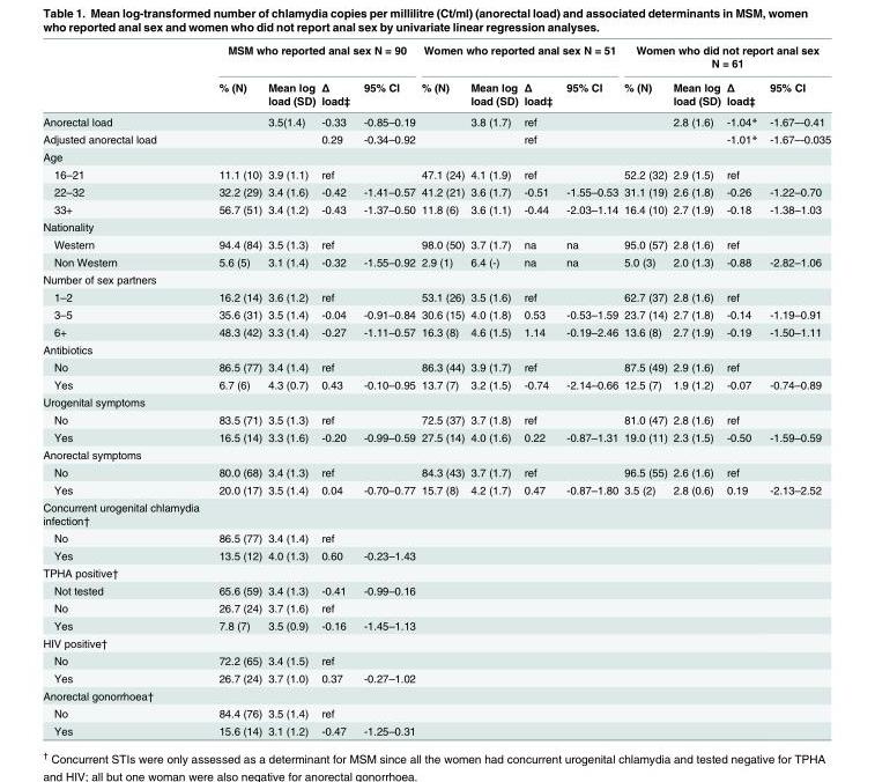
<table><thead><tr><td rowspan="2"></td><td colspan="4">MSM who reported anal sex N = 90</td><td colspan="4">Women who reported anal sex N = 51</td><td colspan="4">Women who did not report anal sex N = 61</td></tr><tr><td>% (N)</td><td>Mean log load (SD)</td><td>Δ load‡</td><td>95% CI</td><td>% (N)</td><td>Mean log load (SD)</td><td>Δ load‡</td><td>95% CI</td><td>% (N)</td><td>Mean log load (SD)</td><td>Δ load‡</td><td>95% CI</td></tr></thead><tbody><tr><td>Anorectal load</td><td></td><td>3.5(1.4)</td><td>-0.33</td><td>-0.85–0.19</td><td></td><td>3.8 (1.7)</td><td>ref</td><td></td><td></td><td>2.8 (1.6)</td><td>-1.04*</td><td>-1.67–-0.41</td></tr><tr><td>Adjusted anorectal load</td><td></td><td></td><td>0.29</td><td>-0.34–0.92</td><td></td><td></td><td>ref</td><td></td><td></td><td></td><td>-1.01*</td><td>-1.67–-0.035</td></tr><tr><td colspan="13">Age</td></tr><tr><td>16–21</td><td>11.1 (10)</td><td>3.9 (1.1)</td><td>ref</td><td></td><td>47.1 (24)</td><td>4.1 (1.9)</td><td>ref</td><td></td><td>52.2 (32)</td><td>2.9 (1.5)</td><td>ref</td><td></td></tr><tr><td>22–32</td><td>32.2 (29)</td><td>3.4 (1.6)</td><td>-0.42</td><td>-1.41–0.57</td><td>41.2 (21)</td><td>3.6 (1.7)</td><td>-0.51</td><td>-1.55–0.53</td><td>31.1 (19)</td><td>2.6 (1.8)</td><td>-0.26</td><td>-1.22–0.70</td></tr><tr><td>33+</td><td>56.7 (51)</td><td>3.4 (1.2)</td><td>-0.43</td><td>-1.37–0.50</td><td>11.8 (6)</td><td>3.6 (1.1)</td><td>-0.44</td><td>-2.03–1.14</td><td>16.4 (10)</td><td>2.7 (1.9)</td><td>-0.18</td><td>-1.38–1.03</td></tr><tr><td colspan="13">Nationality</td></tr><tr><td>Western</td><td>94.4 (84)</td><td>3.5 (1.3)</td><td>ref</td><td></td><td>98.0 (50)</td><td>3.7 (1.7)</td><td>na</td><td>na</td><td>95.0 (57)</td><td>2.8 (1.6)</td><td>ref</td><td></td></tr><tr><td>Non Western</td><td>5.6 (5)</td><td>3.1 (1.4)</td><td>-0.32</td><td>-1.55–0.92</td><td>2.9 (1)</td><td>6.4 (-)</td><td>na</td><td>na</td><td>5.0 (3)</td><td>2.0 (1.3)</td><td>-0.88</td><td>-2.82–1.06</td></tr><tr><td colspan="13">Number of sex partners</td></tr><tr><td>1–2</td><td>16.2 (14)</td><td>3.6 (1.2)</td><td>ref</td><td></td><td>53.1 (26)</td><td>3.5 (1.6)</td><td>ref</td><td></td><td>62.7 (37)</td><td>2.8 (1.6)</td><td>ref</td><td></td></tr><tr><td>3–5</td><td>35.6 (31)</td><td>3.5 (1.4)</td><td>-0.04</td><td>-0.91–0.84</td><td>30.6 (15)</td><td>4.0 (1.8)</td><td>0.53</td><td>-0.53–1.59</td><td>23.7 (14)</td><td>2.7 (1.8)</td><td>-0.14</td><td>-1.19–0.91</td></tr><tr><td>6+</td><td>48.3 (42)</td><td>3.3 (1.4)</td><td>-0.27</td><td>-1.11–0.57</td><td>16.3 (8)</td><td>4.6 (1.5)</td><td>1.14</td><td>-0.19–2.46</td><td>13.6 (8)</td><td>2.7 (1.9)</td><td>-0.19</td><td>-1.50–1.11</td></tr><tr><td colspan="13">Antibiotics</td></tr><tr><td>No</td><td>86.5 (77)</td><td>3.4 (1.4)</td><td>ref</td><td></td><td>86.3 (44)</td><td>3.9 (1.7)</td><td>ref</td><td></td><td>87.5 (49)</td><td>2.9 (1.6)</td><td>ref</td><td></td></tr><tr><td>Yes</td><td>6.7 (6)</td><td>4.3 (0.7)</td><td>0.43</td><td>-0.10–0.95</td><td>13.7 (7)</td><td>3.2 (1.5)</td><td>-0.74</td><td>-2.14–0.66</td><td>12.5 (7)</td><td>1.9 (1.2)</td><td>-0.07</td><td>-0.74–0.89</td></tr><tr><td colspan="13">Urogenital symptoms</td></tr><tr><td>No</td><td>83.5 (71)</td><td>3.5 (1.3)</td><td>ref</td><td></td><td>72.5 (37)</td><td>3.7 (1.8)</td><td>ref</td><td></td><td>81.0 (47)</td><td>2.8 (1.6)</td><td>ref</td><td></td></tr><tr><td>Yes</td><td>16.5 (14)</td><td>3.3 (1.6)</td><td>-0.20</td><td>-0.99–0.59</td><td>27.5 (14)</td><td>4.0 (1.6)</td><td>0.22</td><td>-0.87–1.31</td><td>19.0 (11)</td><td>2.3 (1.5)</td><td>-0.50</td><td>-1.59–0.59</td></tr><tr><td colspan="13">Anorectal symptoms</td></tr><tr><td>No</td><td>80.0 (68)</td><td>3.4 (1.3)</td><td>ref</td><td></td><td>84.3 (43)</td><td>3.7 (1.7)</td><td>ref</td><td></td><td>96.5 (55)</td><td>2.6 (1.6)</td><td>ref</td><td></td></tr><tr><td>Yes</td><td>20.0 (17)</td><td>3.5 (1.4)</td><td>0.04</td><td>-0.70–0.77</td><td>15.7 (8)</td><td>4.2 (1.7)</td><td>0.47</td><td>-0.87–1.80</td><td>3.5 (2)</td><td>2.8 (0.6)</td><td>0.19</td><td>-2.13–2.52</td></tr><tr><td colspan="13">Concurrent urogenital chlamydia infection†</td></tr><tr><td>No</td><td>86.5 (77)</td><td>3.4 (1.4)</td><td>ref</td><td></td><td></td><td></td><td></td><td></td><td></td><td></td><td></td><td></td></tr><tr><td>Yes</td><td>13.5 (12)</td><td>4.0 (1.3)</td><td>0.60</td><td>-0.23–1.43</td><td></td><td></td><td></td><td></td><td></td><td></td><td></td><td></td></tr><tr><td colspan="13">TPHA positive†</td></tr><tr><td>Not tested</td><td>65.6 (59)</td><td>3.4 (1.3)</td><td>-0.41</td><td>-0.99–0.16</td><td></td><td></td><td></td><td></td><td></td><td></td><td></td><td></td></tr><tr><td>No</td><td>26.7 (24)</td><td>3.7 (1.6)</td><td>ref</td><td></td><td></td><td></td><td></td><td></td><td></td><td></td><td></td><td></td></tr><tr><td>Yes</td><td>7.8 (7)</td><td>3.5 (0.9)</td><td>-0.16</td><td>-1.45–1.13</td><td></td><td></td><td></td><td></td><td></td><td></td><td></td><td></td></tr><tr><td colspan="13">HIV positive†</td></tr><tr><td>No</td><td>72.2 (65)</td><td>3.4 (1.5)</td><td>ref</td><td></td><td></td><td></td><td></td><td></td><td></td><td></td><td></td><td></td></tr><tr><td>Yes</td><td>26.7 (24)</td><td>3.7 (1.0)</td><td>0.37</td><td>-0.27–1.02</td><td></td><td></td><td></td><td></td><td></td><td></td><td></td><td></td></tr><tr><td colspan="13">Anorectal gonorrhoea†</td></tr><tr><td>No</td><td>84.4 (76)</td><td>3.5 (1.4)</td><td>ref</td><td></td><td></td><td></td><td></td><td></td><td></td><td></td><td></td><td></td></tr><tr><td>Yes</td><td>15.6 (14)</td><td>3.1 (1.2)</td><td>-0.47</td><td>-1.25–0.31</td><td></td><td></td><td></td><td></td><td></td><td></td><td></td><td></td></tr></tbody></table>